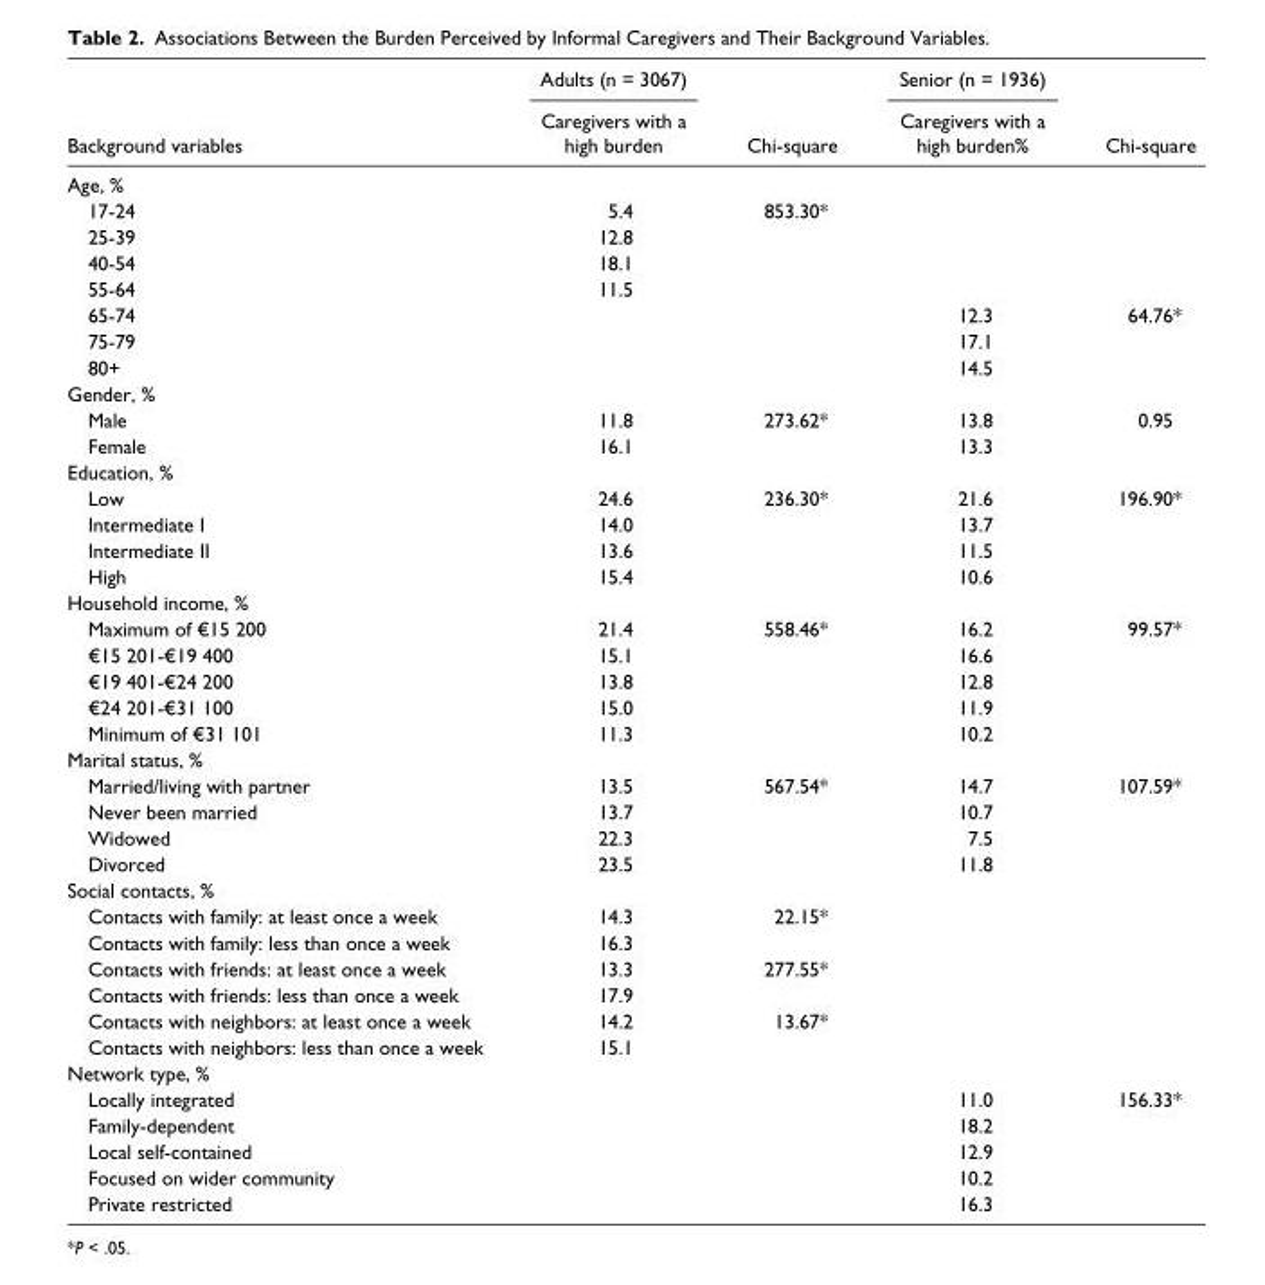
<table><thead><tr><td rowspan="2">Background variables</td><td rowspan="2">Adults (n = 3067) Caregivers with a high burden</td><td rowspan="2">Chi-square</td><td rowspan="2">Senior (n = 1936) Caregivers with a high burden%</td><td rowspan="2">Chi-square</td></tr><tr></tr></thead><tbody><tr><td colspan="5">Age, %</td></tr><tr><td>17-24</td><td>5.4</td><td>853.30*</td><td></td><td></td></tr><tr><td>25-39</td><td>12.8</td><td></td><td></td><td></td></tr><tr><td>40-54</td><td>18.1</td><td></td><td></td><td></td></tr><tr><td>55-64</td><td>11.5</td><td></td><td></td><td></td></tr><tr><td>65-74</td><td></td><td></td><td>12.3</td><td>64.76*</td></tr><tr><td>75-79</td><td></td><td></td><td>17.1</td><td></td></tr><tr><td>80+</td><td></td><td></td><td>14.5</td><td></td></tr><tr><td colspan="5">Gender, %</td></tr><tr><td>Male</td><td>11.8</td><td>273.62*</td><td>13.8</td><td>0.95</td></tr><tr><td>Female</td><td>16.1</td><td></td><td>13.3</td><td></td></tr><tr><td colspan="5">Education, %</td></tr><tr><td>Low</td><td>24.6</td><td>236.30*</td><td>21.6</td><td>196.90*</td></tr><tr><td>Intermediate I</td><td>14.0</td><td></td><td>13.7</td><td></td></tr><tr><td>Intermediate II</td><td>13.6</td><td></td><td>11.5</td><td></td></tr><tr><td>High</td><td>15.4</td><td></td><td>10.6</td><td></td></tr><tr><td colspan="5">Household income, %</td></tr><tr><td>Maximum of €15 200</td><td>21.4</td><td>558.46*</td><td>16.2</td><td>99.57*</td></tr><tr><td>€15 201-€19 400</td><td>15.1</td><td></td><td>16.6</td><td></td></tr><tr><td>€19 401-€24 200</td><td>13.8</td><td></td><td>12.8</td><td></td></tr><tr><td>€24 201-€31 100</td><td>15.0</td><td></td><td>11.9</td><td></td></tr><tr><td>Minimum of €31 101</td><td>11.3</td><td></td><td>10.2</td><td></td></tr><tr><td colspan="5">Marital status, %</td></tr><tr><td>Married/living with partner</td><td>13.5</td><td>567.54*</td><td>14.7</td><td>107.59*</td></tr><tr><td>Never been married</td><td>13.7</td><td></td><td>10.7</td><td></td></tr><tr><td>Widowed</td><td>22.3</td><td></td><td>7.5</td><td></td></tr><tr><td>Divorced</td><td>23.5</td><td></td><td>11.8</td><td></td></tr><tr><td colspan="5">Social contacts, %</td></tr><tr><td>Contacts with family: at least once a week</td><td>14.3</td><td>22.15*</td><td></td><td></td></tr><tr><td>Contacts with family: less than once a week</td><td>16.3</td><td></td><td></td><td></td></tr><tr><td>Contacts with friends: at least once a week</td><td>13.3</td><td>277.55*</td><td></td><td></td></tr><tr><td>Contacts with friends: less than once a week</td><td>17.9</td><td></td><td></td><td></td></tr><tr><td>Contacts with neighbors: at least once a week</td><td>14.2</td><td>13.67*</td><td></td><td></td></tr><tr><td>Contacts with neighbors: less than once a week</td><td>15.1</td><td></td><td></td><td></td></tr><tr><td colspan="5">Network type, %</td></tr><tr><td>Locally integrated</td><td></td><td></td><td>11.0</td><td>156.33*</td></tr><tr><td>Family-dependent</td><td></td><td></td><td>18.2</td><td></td></tr><tr><td>Local self-contained</td><td></td><td></td><td>12.9</td><td></td></tr><tr><td>Focused on wider community</td><td></td><td></td><td>10.2</td><td></td></tr><tr><td>Private restricted</td><td></td><td></td><td>16.3</td><td></td></tr></tbody></table>